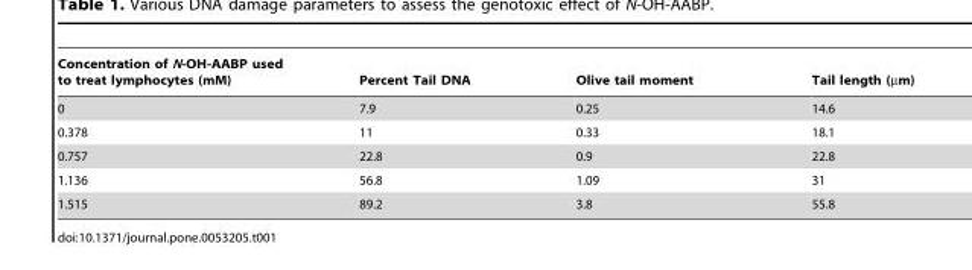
<table><thead><tr><td>Concentration of N-OH-AABP used to treat lymphocytes (mM)</td><td>Percent Tail DNA</td><td>Olive tail moment</td><td>Tail length (µm)</td></tr></thead><tbody><tr><td>0</td><td>7.9</td><td>0.25</td><td>14.6</td></tr><tr><td>0.378</td><td>11</td><td>0.33</td><td>18.1</td></tr><tr><td>0.757</td><td>22.8</td><td>0.9</td><td>22.8</td></tr><tr><td>1.136</td><td>56.8</td><td>1.09</td><td>31</td></tr><tr><td>1.515</td><td>89.2</td><td>3.8</td><td>55.8</td></tr></tbody></table>